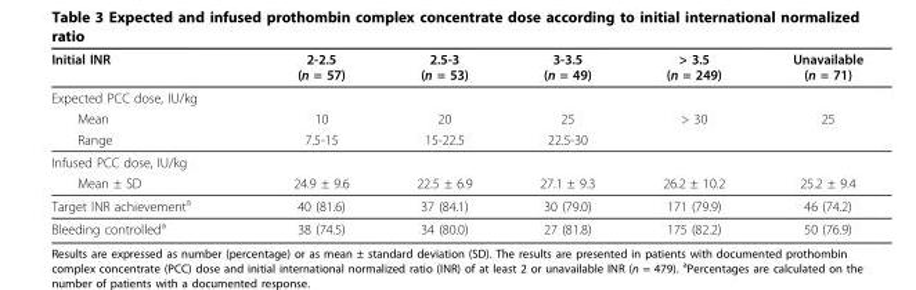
<table><thead><tr><td>Initial INR</td><td>2-2.5 (n = 57)</td><td>2.5-3 (n = 53)</td><td>3-3.5 (n = 49)</td><td>&gt; 3.5 (n = 249)</td><td>Unavailable (n = 71)</td></tr></thead><tbody><tr><td colspan="6">Expected PCC dose, IU/kg</td></tr><tr><td>Mean</td><td>10</td><td>20</td><td>25</td><td>&gt; 30</td><td>25</td></tr><tr><td>Range</td><td>7.5-15</td><td>15-22.5</td><td>22.5-30</td><td></td><td></td></tr><tr><td colspan="6">Infused PCC dose, IU/kg</td></tr><tr><td>Mean ± SD</td><td>24.9 ± 9.6</td><td>22.5 ± 6.9</td><td>27.1 ± 9.3</td><td>26.2 ± 10.2</td><td>25.2 ± 9.4</td></tr><tr><td>Target INR achievement<sup>a</sup></td><td>40 (81.6)</td><td>37 (84.1)</td><td>30 (79.0)</td><td>171 (79.9)</td><td>46 (74.2)</td></tr><tr><td>Bleeding controlled<sup>a</sup></td><td>38 (74.5)</td><td>34 (80.0)</td><td>27 (81.8)</td><td>175 (82.2)</td><td>50 (76.9)</td></tr></tbody></table>